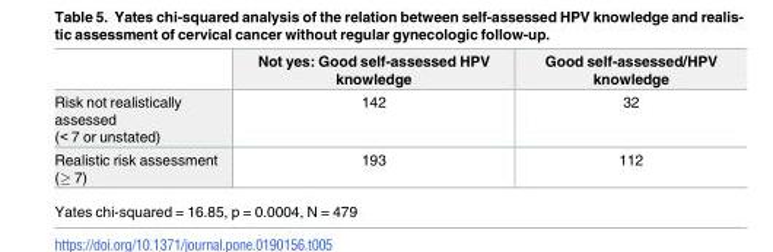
<table><thead><tr><td></td><td>Not yes: Good self-assessed HPV knowledge</td><td>Good self-assessed/HPV knowledge</td></tr></thead><tbody><tr><td>Risk not realistically assessed (&lt; 7 or unstated)</td><td>142</td><td>32</td></tr><tr><td>Realistic risk assessment (≥ 7)</td><td>193</td><td>112</td></tr></tbody></table>